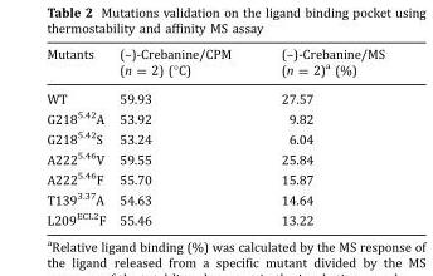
<table><thead><tr><td>Mutants</td><td>(–)-Crebanine/CPM (n = 2) (°C)</td><td>(–)-Crebanine/MS (n = 2)<sup>a</sup> (%)</td></tr></thead><tbody><tr><td>WT</td><td>59.93</td><td>27.57</td></tr><tr><td>G218<sup>5.42</sup>A</td><td>53.92</td><td>9.82</td></tr><tr><td>G218<sup>5.42</sup>S</td><td>53.24</td><td>6.04</td></tr><tr><td>A222<sup>5.46</sup>V</td><td>59.55</td><td>25.84</td></tr><tr><td>A222<sup>5.46</sup>F</td><td>55.70</td><td>15.87</td></tr><tr><td>T139<sup>3.37</sup>A</td><td>54.63</td><td>14.64</td></tr><tr><td>L209<sup>ECL2</sup>F</td><td>55.46</td><td>13.22</td></tr></tbody></table>